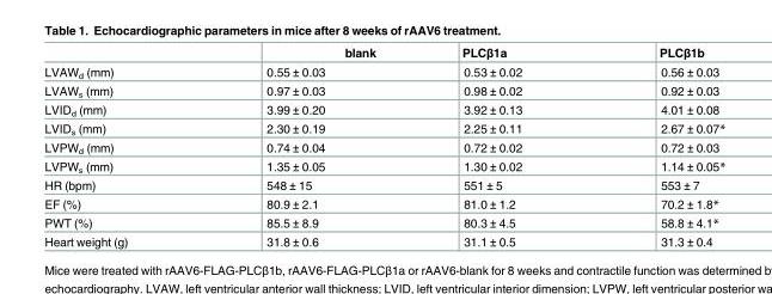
<table><thead><tr><td></td><td>blank</td><td>PLCβ1a</td><td>PLCβ1b</td></tr></thead><tbody><tr><td>LVAW<sub>d</sub> (mm)</td><td>0.55 ± 0.03</td><td>0.53 ± 0.02</td><td>0.56 ± 0.03</td></tr><tr><td>LVAW<sub>s</sub> (mm)</td><td>0.97 ± 0.03</td><td>0.98 ± 0.02</td><td>0.92 ± 0.03</td></tr><tr><td>LVID<sub>d</sub> (mm)</td><td>3.99 ± 0.20</td><td>3.92 ± 0.13</td><td>4.01 ± 0.08</td></tr><tr><td>LVID<sub>s</sub> (mm)</td><td>2.30 ± 0.19</td><td>2.25 ± 0.11</td><td>2.67 ± 0.07*</td></tr><tr><td>LVPW<sub>d</sub> (mm)</td><td>0.74 ± 0.04</td><td>0.72 ± 0.02</td><td>0.72 ± 0.03</td></tr><tr><td>LVPW<sub>s</sub> (mm)</td><td>1.35 ± 0.05</td><td>1.30 ± 0.02</td><td>1.14 ± 0.05*</td></tr><tr><td>HR (bpm)</td><td>548 ± 15</td><td>551 ± 5</td><td>553 ± 7</td></tr><tr><td>EF (%)</td><td>80.9 ± 2.1</td><td>81.0 ± 1.2</td><td>70.2 ± 1.8*</td></tr><tr><td>PWT (%)</td><td>85.5 ± 8.9</td><td>80.3 ± 4.5</td><td>58.8 ± 4.1*</td></tr><tr><td>Heart weight (g)</td><td>31.8 ± 0.6</td><td>31.1 ± 0.5</td><td>31.3 ± 0.4</td></tr></tbody></table>